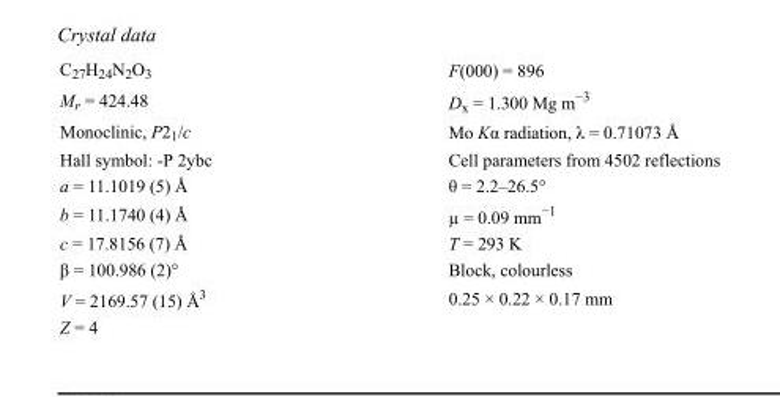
<table><tbody><tr><td>C<sub>27</sub>H<sub>24</sub>N<sub>2</sub>O<sub>3</sub></td><td>F(000) = 896</td></tr><tr><td>M<sub>r</sub> = 424.48</td><td>D<sub>x</sub> = 1.300 Mg m<sup>−3</sup></td></tr><tr><td>Monoclinic, P2<sub>1</sub>/c</td><td>Mo Kα radiation, λ = 0.71073 Å</td></tr><tr><td>Hall symbol: -P 2ybc</td><td>Cell parameters from 4502 reflections</td></tr><tr><td>a = 11.1019 (5) Å</td><td>θ = 2.2–26.5°</td></tr><tr><td>b = 11.1740 (4) Å</td><td>µ = 0.09 mm<sup>−1</sup></td></tr><tr><td>c = 17.8156 (7) Å</td><td>T = 293 K</td></tr><tr><td>β = 100.986 (2)°</td><td>Block, colourless</td></tr><tr><td>V = 2169.57 (15) Å<sup>3</sup></td><td>0.25 × 0.22 × 0.17 mm</td></tr><tr><td>Z = 4</td><td></td></tr></tbody></table>